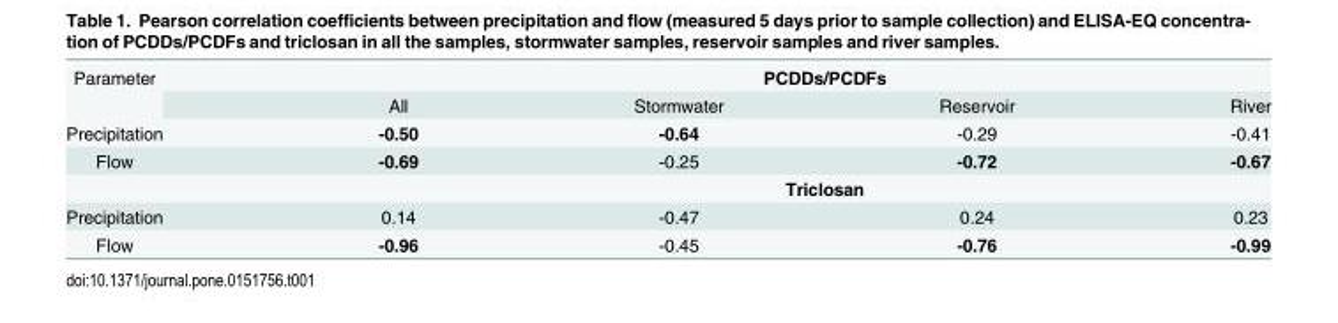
<table><tbody><tr><td rowspan="2">Parameter</td><td colspan="4">PCDDs/PCDFs</td></tr><tr><td>All</td><td>Stormwater</td><td>Reservoir</td><td>River</td></tr><tr><td>Precipitation</td><td>-0.50</td><td>-0.64</td><td>-0.29</td><td>-0.41</td></tr><tr><td rowspan="2">Flow</td><td>-0.69</td><td>-0.25</td><td>-0.72</td><td>-0.67</td></tr><tr><td colspan="4">Triclosan</td></tr><tr><td>Precipitation</td><td>0.14</td><td>-0.47</td><td>0.24</td><td>0.23</td></tr><tr><td>Flow</td><td>-0.96</td><td>-0.45</td><td>-0.76</td><td>-0.99</td></tr></tbody></table>